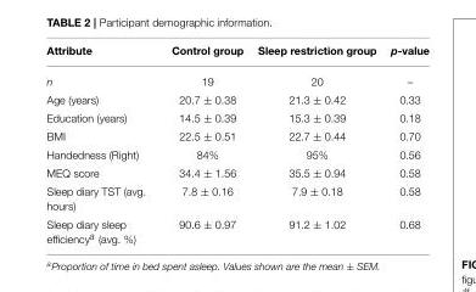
<table><thead><tr><td>Attribute</td><td>Control group</td><td>Sleep restriction group</td><td>p-value</td></tr></thead><tbody><tr><td>n</td><td>19</td><td>20</td><td>–</td></tr><tr><td>Age (years)</td><td>20.7 ± 0.38</td><td>21.3 ± 0.42</td><td>0.33</td></tr><tr><td>Education (years)</td><td>14.5 ± 0.39</td><td>15.3 ± 0.39</td><td>0.18</td></tr><tr><td>BMI</td><td>22.5 ± 0.51</td><td>22.7 ± 0.44</td><td>0.70</td></tr><tr><td>Handedness (Right)</td><td>84%</td><td>95%</td><td>0.56</td></tr><tr><td>MEQ score</td><td>34.4 ± 1.56</td><td>35.5 ± 0.94</td><td>0.58</td></tr><tr><td>Sleep diary TST (avg. hours)</td><td>7.8 ± 0.16</td><td>7.9 ± 0.18</td><td>0.58</td></tr><tr><td>Sleep diary sleep efficiency<sup>a</sup> (avg. %)</td><td>90.6 ± 0.97</td><td>91.2 ± 1.02</td><td>0.68</td></tr></tbody></table>